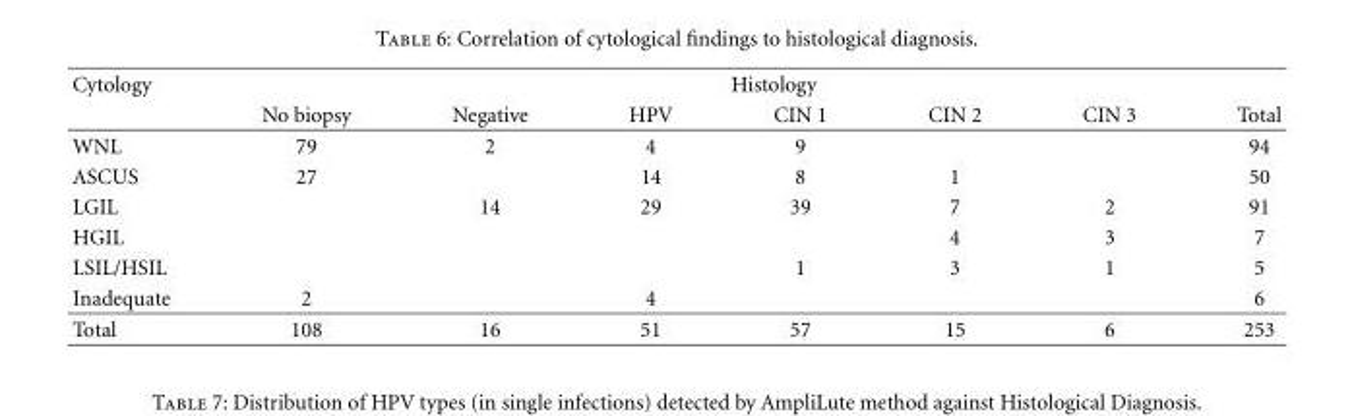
<table><thead><tr><td rowspan="2">Cytology</td><td colspan="7">Histology</td></tr><tr><td>No biopsy</td><td>Negative</td><td>HPV</td><td>CIN 1</td><td>CIN 2</td><td>CIN 3</td><td>Total</td></tr></thead><tbody><tr><td>WNL</td><td>79</td><td>2</td><td>4</td><td>9</td><td></td><td></td><td>94</td></tr><tr><td>ASCUS</td><td>27</td><td></td><td>14</td><td>8</td><td>1</td><td></td><td>50</td></tr><tr><td>LGIL</td><td></td><td>14</td><td>29</td><td>39</td><td>7</td><td>2</td><td>91</td></tr><tr><td>HGIL</td><td></td><td></td><td></td><td></td><td>4</td><td>3</td><td>7</td></tr><tr><td>LSIL/HSIL</td><td></td><td></td><td></td><td>1</td><td>3</td><td>1</td><td>5</td></tr><tr><td>Inadequate</td><td>2</td><td></td><td>4</td><td></td><td></td><td></td><td>6</td></tr><tr><td>Total</td><td>108</td><td>16</td><td>51</td><td>57</td><td>15</td><td>6</td><td>253</td></tr></tbody></table>